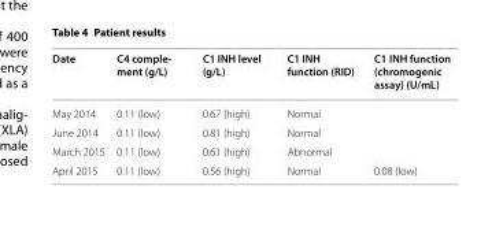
<table><thead><tr><td>Date</td><td>C4 comple‑ ment (g/L)</td><td>C1 INH level (g/L)</td><td>C1 INH function (RID)</td><td>C1 INH function (chromogenic assay) (U/mL)</td></tr></thead><tbody><tr><td>May 2014</td><td>0.11 (low)</td><td>0.67 (high)</td><td>Normal</td><td></td></tr><tr><td>June 2014</td><td>0.11 (low)</td><td>0.81 (high)</td><td>Normal</td><td></td></tr><tr><td>March 2015</td><td>0.11 (low)</td><td>0.61 (high)</td><td>Abnormal</td><td></td></tr><tr><td>April 2015</td><td>0.11 (low)</td><td>0.56 (high)</td><td>Normal</td><td>0.08 (low)</td></tr></tbody></table>